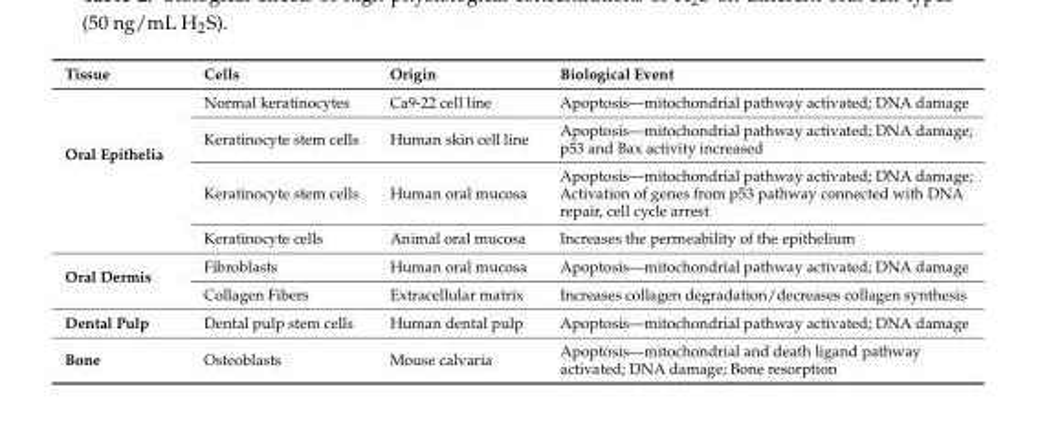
<table><thead><tr><td>Tissue</td><td>Cells</td><td>Origin</td><td>Biological Event</td></tr></thead><tbody><tr><td rowspan="4">Oral Epithelia</td><td>Normal keratinocytes</td><td>Ca9-22 cell line</td><td>Apoptosis—mitochondrial pathway activated; DNA damage</td></tr><tr><td>Keratinocyte stem cells</td><td>Human skin cell line</td><td>Apoptosis—mitochondrial pathway activated; DNA damage; p53 and Bax activity increased</td></tr><tr><td>Keratinocyte stem cells</td><td>Human oral mucosa</td><td>Apoptosis—mitochondrial pathway activated; DNA damage; Activation of genes from p53 pathway connected with DNA repair, cell cycle arrest</td></tr><tr><td>Keratinocyte cells</td><td>Animal oral mucosa</td><td>Increases the permeability of the epithelium</td></tr><tr><td rowspan="2">Oral Dermis</td><td>Fibroblasts</td><td>Human oral mucosa</td><td>Apoptosis—mitochondrial pathway activated; DNA damage</td></tr><tr><td>Collagen Fibers</td><td>Extracellular matrix</td><td>Increases collagen degradation/decreases collagen synthesis</td></tr><tr><td>Dental Pulp</td><td>Dental pulp stem cells</td><td>Human dental pulp</td><td>Apoptosis—mitochondrial pathway activated; DNA damage</td></tr><tr><td>Bone</td><td>Osteoblasts</td><td>Mouse calvaria</td><td>Apoptosis—mitochondrial and death ligand pathway activated; DNA damage; Bone resorption</td></tr></tbody></table>